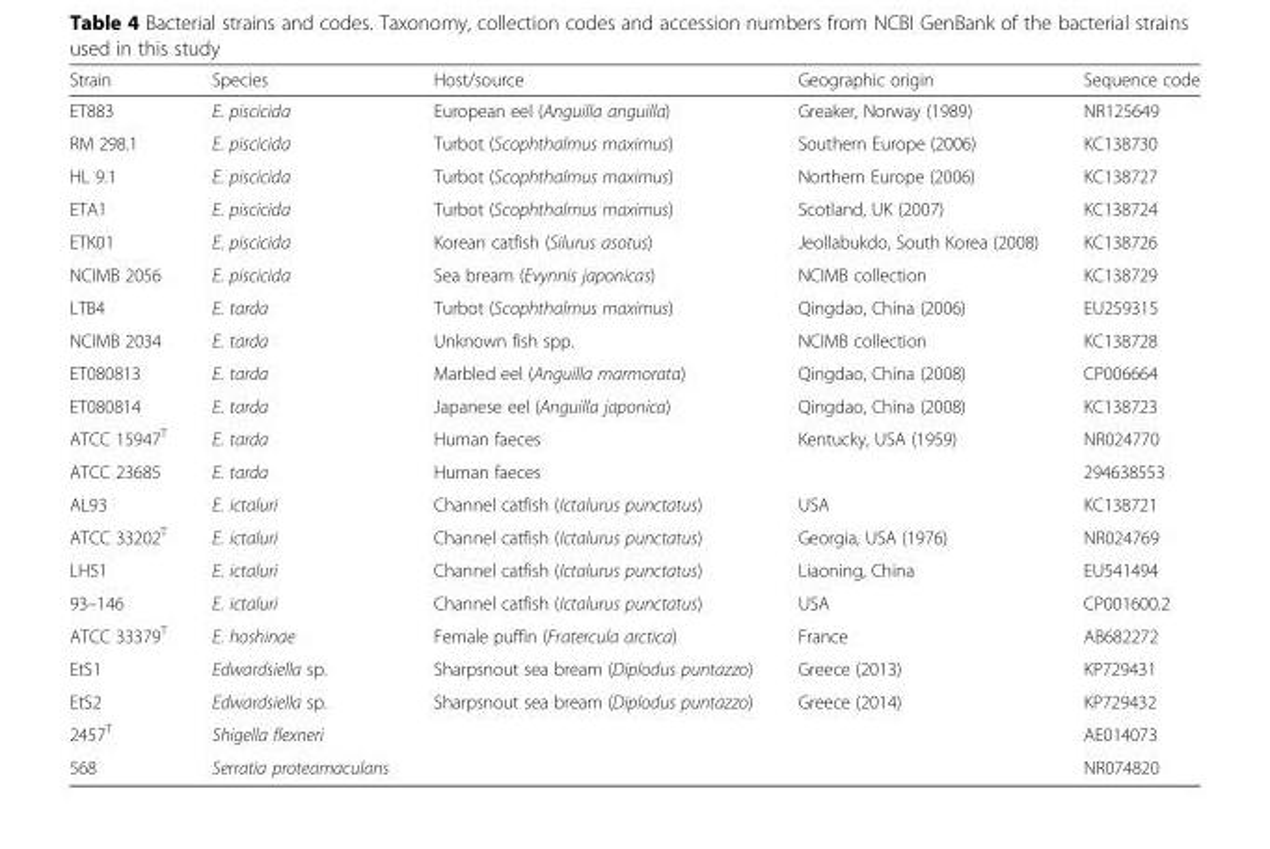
<table><thead><tr><td>Strain</td><td>Species</td><td>Host/source</td><td>Geographic origin</td><td>Sequence code</td></tr></thead><tbody><tr><td>ET883</td><td>E. piscicida</td><td>European eel (Anguilla anguilla)</td><td>Greaker, Norway (1989)</td><td>NR125649</td></tr><tr><td>RM 298.1</td><td>E. piscicida</td><td>Turbot (Scophthalmus maximus)</td><td>Southern Europe (2006)</td><td>KC138730</td></tr><tr><td>HL 9.1</td><td>E. piscicida</td><td>Turbot (Scophthalmus maximus)</td><td>Northern Europe (2006)</td><td>KC138727</td></tr><tr><td>ETA1</td><td>E. piscicida</td><td>Turbot (Scophthalmus maximus)</td><td>Scotland, UK (2007)</td><td>KC138724</td></tr><tr><td>ETK01</td><td>E. piscicida</td><td>Korean catfish (Silurus asotus)</td><td>Jeollabukdo, South Korea (2008)</td><td>KC138726</td></tr><tr><td>NCIMB 2056</td><td>E. piscicida</td><td>Sea bream (Evynnis japonicas)</td><td>NCIMB collection</td><td>KC138729</td></tr><tr><td>LTB4</td><td>E. tarda</td><td>Turbot (Scophthalmus maximus)</td><td>Qingdao, China (2006)</td><td>EU259315</td></tr><tr><td>NCIMB 2034</td><td>E. tarda</td><td>Unknown fish spp.</td><td>NCIMB collection</td><td>KC138728</td></tr><tr><td>ET080813</td><td>E. tarda</td><td>Marbled eel (Anguilla marmorata)</td><td>Qingdao, China (2008)</td><td>CP006664</td></tr><tr><td>ET080814</td><td>E. tarda</td><td>Japanese eel (Anguilla japonica)</td><td>Qingdao, China (2008)</td><td>KC138723</td></tr><tr><td>ATCC 15947<sup>T</sup></td><td>E. tarda</td><td>Human faeces</td><td>Kentucky, USA (1959)</td><td>NR024770</td></tr><tr><td>ATCC 23685</td><td>E. tarda</td><td>Human faeces</td><td></td><td>294638553</td></tr><tr><td>AL93</td><td>E. ictaluri</td><td>Channel catfish (Ictalurus punctatus)</td><td>USA</td><td>KC138721</td></tr><tr><td>ATCC 33202<sup>T</sup></td><td>E. ictaluri</td><td>Channel catfish (Ictalurus punctatus)</td><td>Georgia, USA (1976)</td><td>NR024769</td></tr><tr><td>LH51</td><td>E. ictaluri</td><td>Channel catfish (Ictalurus punctatus)</td><td>Liaoning, China</td><td>EU541494</td></tr><tr><td>93–146</td><td>E. ictaluri</td><td>Channel catfish (Ictalurus punctatus)</td><td>USA</td><td>CP001600.2</td></tr><tr><td>ATCC 33379<sup>T</sup></td><td>E. hoshinae</td><td>Female puffin (Fratercula arctica)</td><td>France</td><td>AB682272</td></tr><tr><td>EtS1</td><td>Edwardsiella sp.</td><td>Sharpsnout sea bream (Diplodus puntazzo)</td><td>Greece (2013)</td><td>KP729431</td></tr><tr><td>EtS2</td><td>Edwardsiella sp.</td><td>Sharpsnout sea bream (Diplodus puntazzo)</td><td>Greece (2014)</td><td>KP729432</td></tr><tr><td>2457<sup>T</sup></td><td>Shigella flexneri</td><td></td><td></td><td>AE014073</td></tr><tr><td>568</td><td>Serratia proteamaculans</td><td></td><td></td><td>NR074820</td></tr></tbody></table>